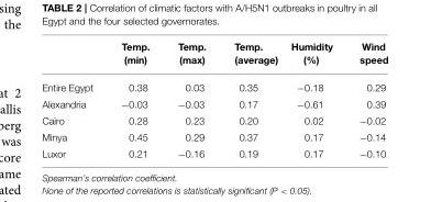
<table><thead><tr><td></td><td>Temp. (min)</td><td>Temp. (max)</td><td>Temp. (average)</td><td>Humidity (%)</td><td>Wind speed</td></tr></thead><tbody><tr><td>Entire Egypt</td><td>0.38</td><td>0.03</td><td>0.35</td><td>−0.18</td><td>0.29</td></tr><tr><td>Alexandria</td><td>−0.03</td><td>−0.03</td><td>0.17</td><td>−0.61</td><td>0.39</td></tr><tr><td>Cairo</td><td>0.28</td><td>0.23</td><td>0.20</td><td>0.02</td><td>−0.02</td></tr><tr><td>Minya</td><td>0.45</td><td>0.29</td><td>0.37</td><td>0.17</td><td>−0.14</td></tr><tr><td>Luxor</td><td>0.21</td><td>−0.16</td><td>0.19</td><td>0.17</td><td>−0.10</td></tr></tbody></table>